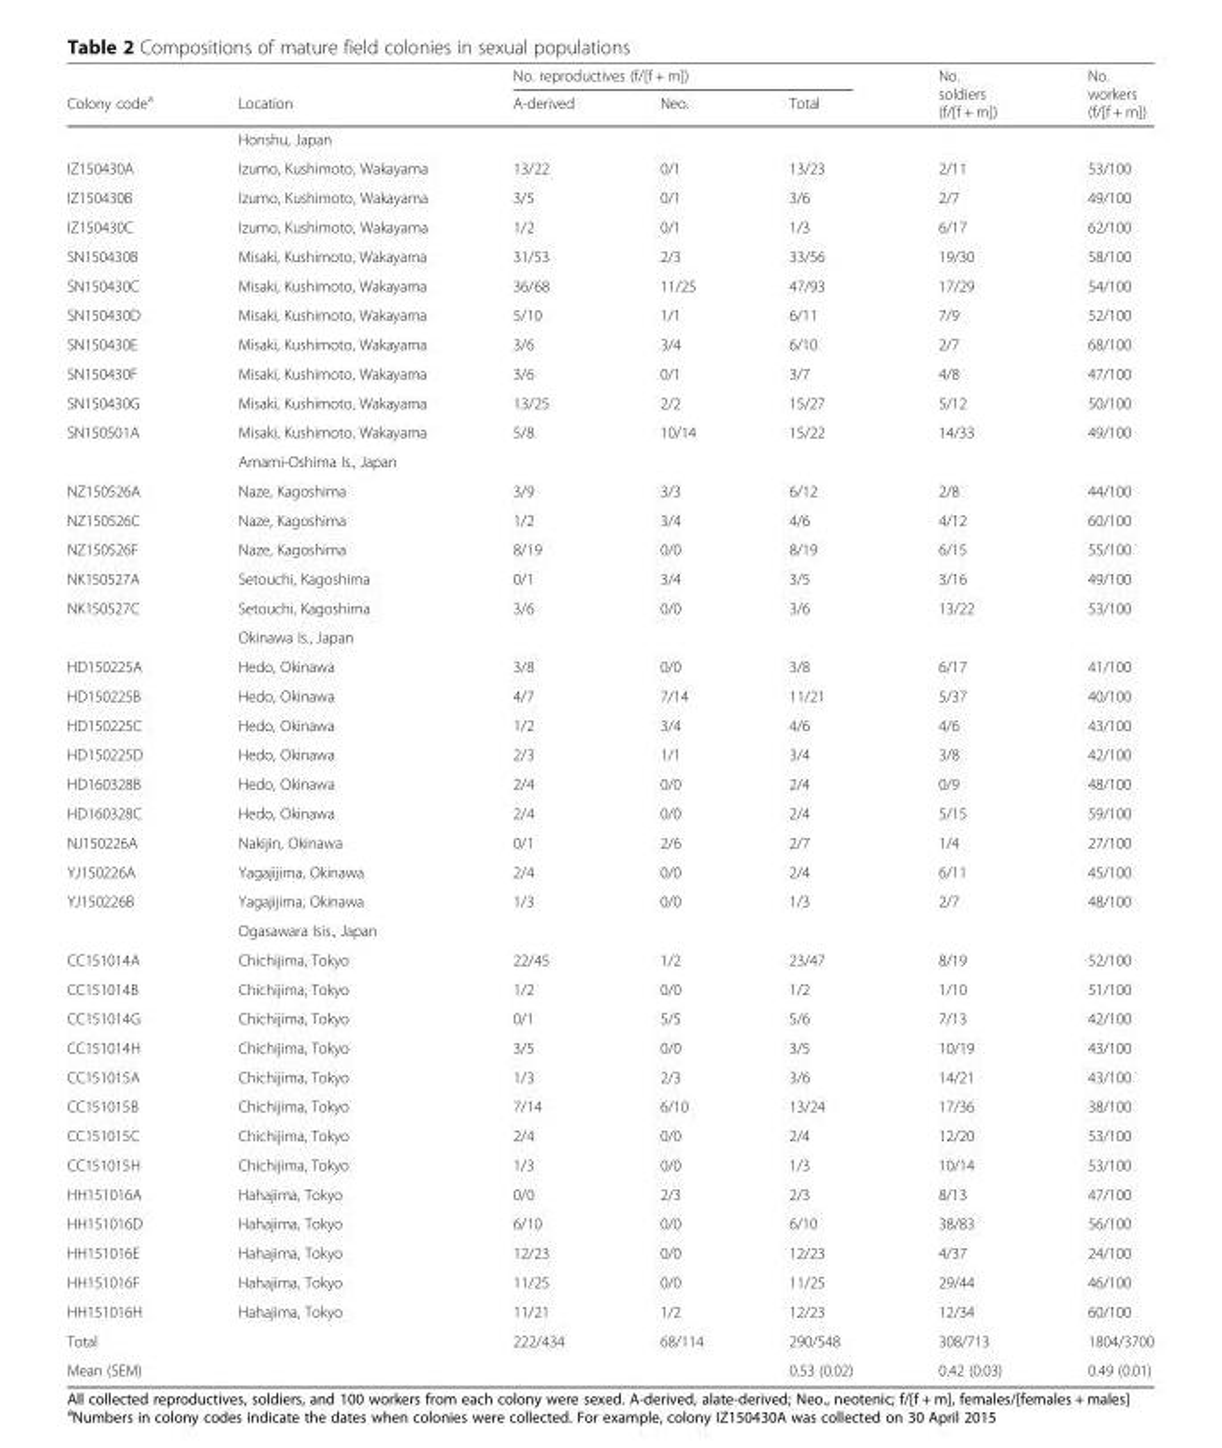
<table><thead><tr><td rowspan="2">Colony code<sup>a</sup></td><td rowspan="2">Location</td><td colspan="3">No. reproductives (f/[f + m])</td><td rowspan="2">No. soldiers (f/[f + m])</td><td rowspan="2">No. workers (f/[f + m])</td></tr><tr><td>A-derived</td><td>Neo.</td><td>Total</td></tr></thead><tbody><tr><td></td><td>Honshu, Japan</td><td></td><td></td><td></td><td></td><td></td></tr><tr><td>IZ150430A</td><td>Izumo, Kushimoto, Wakayama</td><td>13/22</td><td>0/1</td><td>13/23</td><td>2/11</td><td>53/100</td></tr><tr><td>IZ150430B</td><td>Izumo, Kushimoto, Wakayama</td><td>3/5</td><td>0/1</td><td>3/6</td><td>2/7</td><td>49/100</td></tr><tr><td>IZ150430C</td><td>Izumo, Kushimoto, Wakayama</td><td>1/2</td><td>0/1</td><td>1/3</td><td>6/17</td><td>62/100</td></tr><tr><td>SN150430B</td><td>Misaki, Kushimoto, Wakayama</td><td>31/53</td><td>2/3</td><td>33/56</td><td>19/30</td><td>58/100</td></tr><tr><td>SN150430C</td><td>Misaki, Kushimoto, Wakayama</td><td>36/68</td><td>11/25</td><td>47/93</td><td>17/29</td><td>54/100</td></tr><tr><td>SN150430D</td><td>Misaki, Kushimoto, Wakayama</td><td>5/10</td><td>1/1</td><td>6/11</td><td>7/9</td><td>52/100</td></tr><tr><td>SN150430E</td><td>Misaki, Kushimoto, Wakayama</td><td>3/6</td><td>3/4</td><td>6/10</td><td>2/7</td><td>68/100</td></tr><tr><td>SN150430F</td><td>Misaki, Kushimoto, Wakayama</td><td>3/6</td><td>0/1</td><td>3/7</td><td>4/8</td><td>47/100</td></tr><tr><td>SN150430G</td><td>Misaki, Kushimoto, Wakayama</td><td>13/25</td><td>2/2</td><td>15/27</td><td>5/12</td><td>50/100</td></tr><tr><td rowspan="2">SN150501A</td><td>Misaki, Kushimoto, Wakayama</td><td>5/8</td><td>10/14</td><td>15/22</td><td>14/33</td><td>49/100</td></tr><tr><td>Amami-Oshima Is., Japan</td><td></td><td></td><td></td><td></td><td></td></tr><tr><td>NZ150526A</td><td>Naze, Kagoshima</td><td>3/9</td><td>3/3</td><td>6/12</td><td>2/8</td><td>44/100</td></tr><tr><td>NZ150526C</td><td>Naze, Kagoshima</td><td>1/2</td><td>3/4</td><td>4/6</td><td>4/12</td><td>60/100</td></tr><tr><td>NZ150526F</td><td>Naze, Kagoshima</td><td>8/19</td><td>0/0</td><td>8/19</td><td>6/15</td><td>55/100</td></tr><tr><td>NK150527A</td><td>Setouchi, Kagoshima</td><td>0/1</td><td>3/4</td><td>3/5</td><td>3/16</td><td>49/100</td></tr><tr><td rowspan="2">NK150527C</td><td>Setouchi, Kagoshima</td><td>3/6</td><td>0/0</td><td>3/6</td><td>13/22</td><td>53/100</td></tr><tr><td>Okinawa Is., Japan</td><td></td><td></td><td></td><td></td><td></td></tr><tr><td>HD150225A</td><td>Hedo, Okinawa</td><td>3/8</td><td>0/0</td><td>3/8</td><td>6/17</td><td>41/100</td></tr><tr><td>HD150225B</td><td>Hedo, Okinawa</td><td>4/7</td><td>7/14</td><td>11/21</td><td>5/37</td><td>40/100</td></tr><tr><td>HD150225C</td><td>Hedo, Okinawa</td><td>1/2</td><td>3/4</td><td>4/6</td><td>4/6</td><td>43/100</td></tr><tr><td>HD150225D</td><td>Hedo, Okinawa</td><td>2/3</td><td>1/1</td><td>3/4</td><td>3/8</td><td>42/100</td></tr><tr><td>HD160328B</td><td>Hedo, Okinawa</td><td>2/4</td><td>0/0</td><td>2/4</td><td>0/9</td><td>48/100</td></tr><tr><td>HD160328C</td><td>Hedo, Okinawa</td><td>2/4</td><td>0/0</td><td>2/4</td><td>5/15</td><td>59/100</td></tr><tr><td>NJ150226A</td><td>Nakijin, Okinawa</td><td>0/1</td><td>2/6</td><td>2/7</td><td>1/4</td><td>27/100</td></tr><tr><td>YJ150226A</td><td>Yagajijima, Okinawa</td><td>2/4</td><td>0/0</td><td>2/4</td><td>6/11</td><td>45/100</td></tr><tr><td rowspan="2">YJ150226B</td><td>Yagajijima, Okinawa</td><td>1/3</td><td>0/0</td><td>1/3</td><td>2/7</td><td>48/100</td></tr><tr><td>Ogasawara Isis., Japan</td><td></td><td></td><td></td><td></td><td></td></tr><tr><td>CC151014A</td><td>Chichijima, Tokyo</td><td>22/45</td><td>1/2</td><td>23/47</td><td>8/19</td><td>52/100</td></tr><tr><td>CC151014B</td><td>Chichijima, Tokyo</td><td>1/2</td><td>0/0</td><td>1/2</td><td>1/10</td><td>51/100</td></tr><tr><td>CC151014G</td><td>Chichijima, Tokyo</td><td>0/1</td><td>5/5</td><td>5/6</td><td>7/13</td><td>42/100</td></tr><tr><td>CC151014H</td><td>Chichijima, Tokyo</td><td>3/5</td><td>0/0</td><td>3/5</td><td>10/19</td><td>43/100</td></tr><tr><td>CC151015A</td><td>Chichijima, Tokyo</td><td>1/3</td><td>2/3</td><td>3/6</td><td>14/21</td><td>43/100</td></tr><tr><td>CC151015B</td><td>Chichijima, Tokyo</td><td>7/14</td><td>6/10</td><td>13/24</td><td>17/36</td><td>38/100</td></tr><tr><td>CC151015C</td><td>Chichijima, Tokyo</td><td>2/4</td><td>0/0</td><td>2/4</td><td>12/20</td><td>53/100</td></tr><tr><td>CC151015H</td><td>Chichijima, Tokyo</td><td>1/3</td><td>0/0</td><td>1/3</td><td>10/14</td><td>53/100</td></tr><tr><td>HH151016A</td><td>Hahajima, Tokyo</td><td>0/0</td><td>2/3</td><td>2/3</td><td>8/13</td><td>47/100</td></tr><tr><td>HH151016D</td><td>Hahajima, Tokyo</td><td>6/10</td><td>0/0</td><td>6/10</td><td>38/83</td><td>56/100</td></tr><tr><td>HH151016E</td><td>Hahajima, Tokyo</td><td>12/23</td><td>0/0</td><td>12/23</td><td>4/37</td><td>24/100</td></tr><tr><td>HH151016F</td><td>Hahajima, Tokyo</td><td>11/25</td><td>0/0</td><td>11/25</td><td>29/44</td><td>46/100</td></tr><tr><td>HH151016H</td><td>Hahajima, Tokyo</td><td>11/21</td><td>1/2</td><td>12/23</td><td>12/34</td><td>60/100</td></tr><tr><td>Total</td><td></td><td>222/434</td><td>68/114</td><td>290/548</td><td>308/713</td><td>1804/3700</td></tr><tr><td>Mean (SEM)</td><td></td><td></td><td></td><td>0.53 (0.02)</td><td>0.42 (0.03)</td><td>0.49 (0.01)</td></tr></tbody></table>